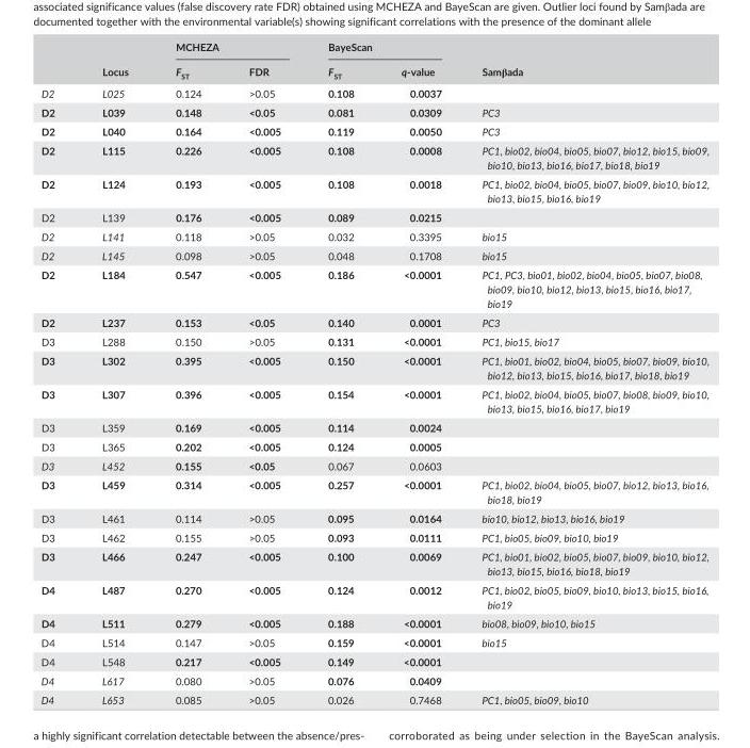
<table><thead><tr><td rowspan="2"></td><td rowspan="2">Locus</td><td colspan="2">MCHEZA</td><td colspan="2">BayeScan</td><td rowspan="2">Samβada</td></tr><tr><td>F<sub>ST</sub></td><td>FDR</td><td>F<sub>ST</sub></td><td>q- value</td></tr></thead><tbody><tr><td>D2</td><td>L025</td><td>0.124</td><td>&gt;0.05</td><td>0.108</td><td>0.0037</td><td></td></tr><tr><td>D2</td><td>L039</td><td>0.148</td><td>&lt;0.05</td><td>0.081</td><td>0.0309</td><td>PC3</td></tr><tr><td>D2</td><td>L040</td><td>0.164</td><td>&lt;0.005</td><td>0.119</td><td>0.0050</td><td>PC3</td></tr><tr><td>D2</td><td>L115</td><td>0.226</td><td>&lt;0.005</td><td>0.108</td><td>0.0008</td><td>PC1, bio02, bio04, bio05, bio07, bio12, bio15, bio09, bio10, bio13, bio16, bio17, bio18, bio19</td></tr><tr><td>D2</td><td>L124</td><td>0.193</td><td>&lt;0.005</td><td>0.108</td><td>0.0018</td><td>PC1, bio02, bio04, bio05, bio07, bio09, bio10, bio12, bio13, bio15, bio16, bio19</td></tr><tr><td>D2</td><td>L139</td><td>0.176</td><td>&lt;0.005</td><td>0.089</td><td>0.0215</td><td></td></tr><tr><td>D2</td><td>L141</td><td>0.118</td><td>&gt;0.05</td><td>0.032</td><td>0.3395</td><td>bio15</td></tr><tr><td>D2</td><td>L145</td><td>0.098</td><td>&gt;0.05</td><td>0.048</td><td>0.1708</td><td>bio15</td></tr><tr><td>D2</td><td>L184</td><td>0.547</td><td>&lt;0.005</td><td>0.186</td><td>&lt;0.0001</td><td>PC1, PC3, bio01, bio02, bio04, bio05, bio07, bio08, bio09, bio10, bio12, bio13, bio15, bio16, bio17, bio19</td></tr><tr><td>D2</td><td>L237</td><td>0.153</td><td>&lt;0.05</td><td>0.140</td><td>0.0001</td><td>PC3</td></tr><tr><td>D3</td><td>L288</td><td>0.150</td><td>&gt;0.05</td><td>0.131</td><td>&lt;0.0001</td><td>PC1, bio15, bio17</td></tr><tr><td>D3</td><td>L302</td><td>0.395</td><td>&lt;0.005</td><td>0.150</td><td>&lt;0.0001</td><td>PC1, bio01, bio02, bio04, bio05, bio07, bio09, bio10, bio12, bio13, bio15, bio16, bio17, bio18, bio19</td></tr><tr><td>D3</td><td>L307</td><td>0.396</td><td>&lt;0.005</td><td>0.154</td><td>&lt;0.0001</td><td>PC1, bio02, bio04, bio05, bio07, bio08, bio09, bio10, bio13, bio15, bio16, bio17, bio19</td></tr><tr><td>D3</td><td>L359</td><td>0.169</td><td>&lt;0.005</td><td>0.114</td><td>0.0024</td><td></td></tr><tr><td>D3</td><td>L365</td><td>0.202</td><td>&lt;0.005</td><td>0.124</td><td>0.0005</td><td></td></tr><tr><td>D3</td><td>L452</td><td>0.155</td><td>&lt;0.05</td><td>0.067</td><td>0.0603</td><td></td></tr><tr><td>D3</td><td>L459</td><td>0.314</td><td>&lt;0.005</td><td>0.257</td><td>&lt;0.0001</td><td>PC1, bio02, bio04, bio05, bio07, bio12, bio13, bio16, bio18, bio19</td></tr><tr><td>D3</td><td>L461</td><td>0.114</td><td>&gt;0.05</td><td>0.095</td><td>0.0164</td><td>bio10, bio12, bio13, bio16, bio19</td></tr><tr><td>D3</td><td>L462</td><td>0.155</td><td>&gt;0.05</td><td>0.093</td><td>0.0111</td><td>PC1, bio05, bio09, bio10, bio19</td></tr><tr><td>D3</td><td>L466</td><td>0.247</td><td>&lt;0.005</td><td>0.100</td><td>0.0069</td><td>PC1, bio01, bio02, bio05, bio07, bio09, bio10, bio12, bio13, bio15, bio16, bio18, bio19</td></tr><tr><td>D4</td><td>L487</td><td>0.270</td><td>&lt;0.005</td><td>0.124</td><td>0.0012</td><td>PC1, bio02, bio05, bio09, bio10, bio13, bio15, bio16, bio19</td></tr><tr><td>D4</td><td>L511</td><td>0.279</td><td>&lt;0.005</td><td>0.188</td><td>&lt;0.0001</td><td>bio08, bio09, bio10, bio15</td></tr><tr><td>D4</td><td>L514</td><td>0.147</td><td>&gt;0.05</td><td>0.159</td><td>&lt;0.0001</td><td>bio15</td></tr><tr><td>D4</td><td>L548</td><td>0.217</td><td>&lt;0.005</td><td>0.149</td><td>&lt;0.0001</td><td></td></tr><tr><td>D4</td><td>L617</td><td>0.080</td><td>&gt;0.05</td><td>0.076</td><td>0.0409</td><td></td></tr><tr><td>D4</td><td>L653</td><td>0.085</td><td>&gt;0.05</td><td>0.026</td><td>0.7468</td><td>PC1, bio05, bio09, bio10</td></tr></tbody></table>